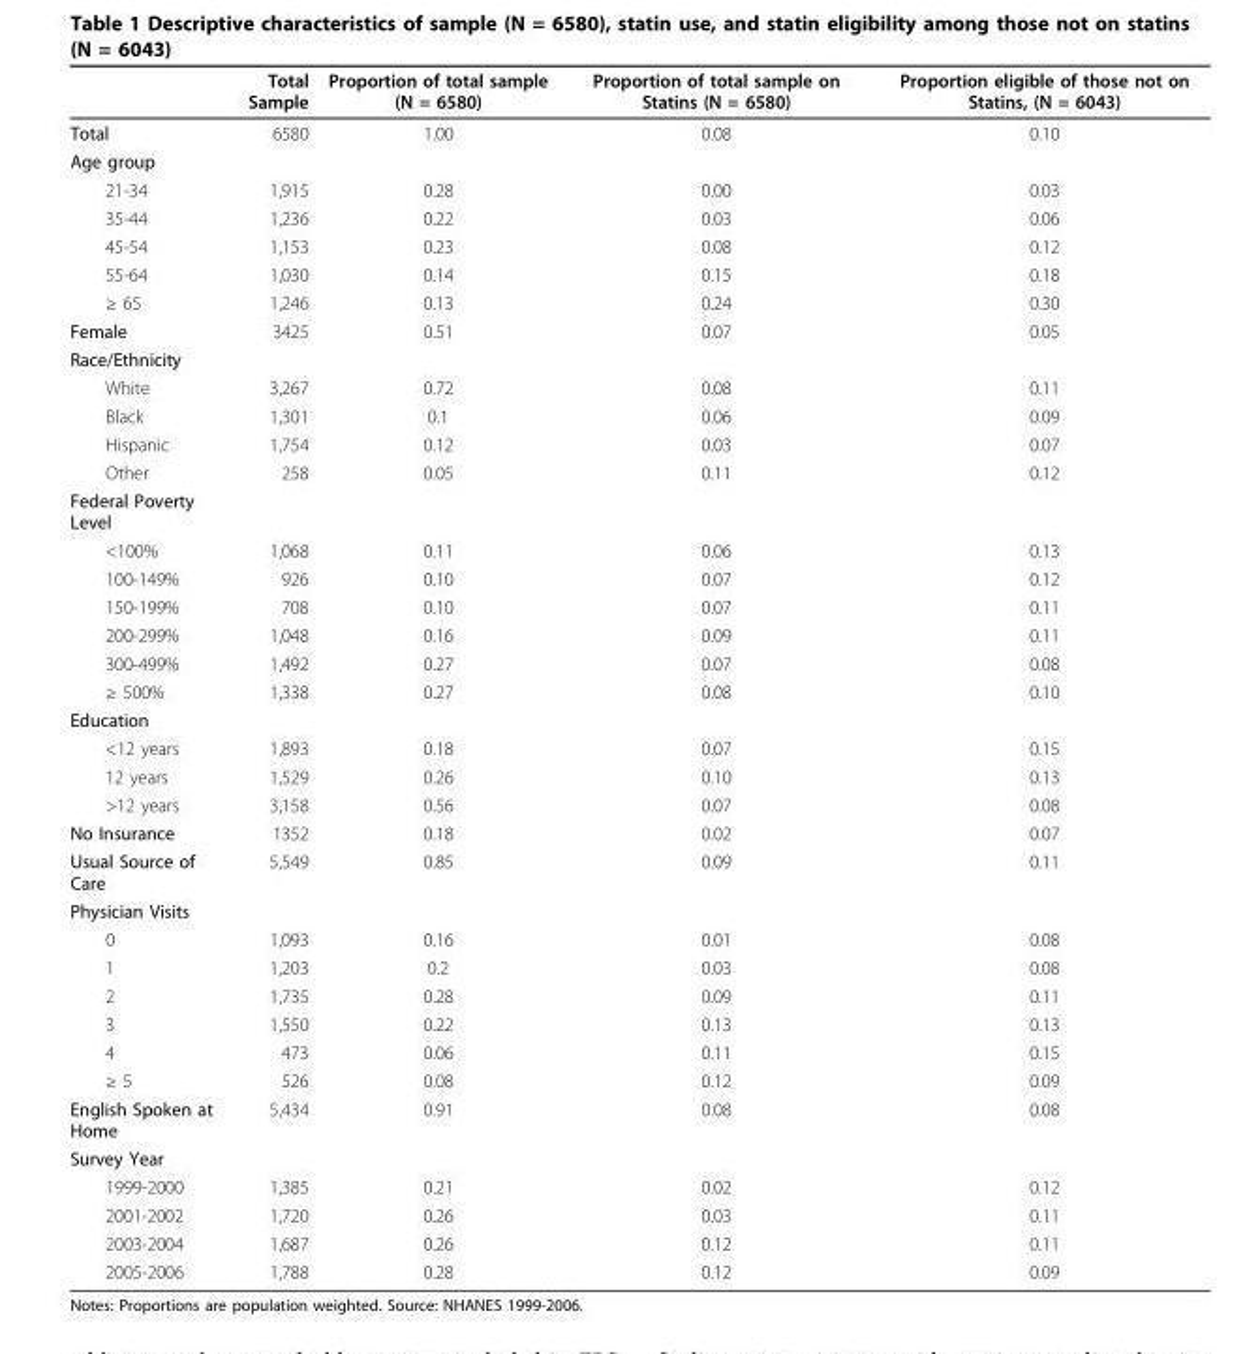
<table><thead><tr><td></td><td>Total Sample</td><td>Proportion of total sample (N = 6580)</td><td>Proportion of total sample on Statins (N = 6580)</td><td>Proportion eligible of those not on Statins, (N = 6043)</td></tr></thead><tbody><tr><td>Total</td><td>6580</td><td>1.00</td><td>0.08</td><td>0.10</td></tr><tr><td colspan="5">Age group</td></tr><tr><td>21-34</td><td>1,915</td><td>0.28</td><td>0.00</td><td>0.03</td></tr><tr><td>35-44</td><td>1,236</td><td>0.22</td><td>0.03</td><td>0.06</td></tr><tr><td>45-54</td><td>1,153</td><td>0.23</td><td>0.08</td><td>0.12</td></tr><tr><td>55-64</td><td>1,030</td><td>0.14</td><td>0.15</td><td>0.18</td></tr><tr><td>≥ 65</td><td>1,246</td><td>0.13</td><td>0.24</td><td>0.30</td></tr><tr><td>Female</td><td>3425</td><td>0.51</td><td>0.07</td><td>0.05</td></tr><tr><td colspan="5">Race/Ethnicity</td></tr><tr><td>White</td><td>3,267</td><td>0.72</td><td>0.08</td><td>0.11</td></tr><tr><td>Black</td><td>1,301</td><td>0.1</td><td>0.06</td><td>0.09</td></tr><tr><td>Hispanic</td><td>1,754</td><td>0.12</td><td>0.03</td><td>0.07</td></tr><tr><td>Other</td><td>258</td><td>0.05</td><td>0.11</td><td>0.12</td></tr><tr><td colspan="5">Federal Poverty Level</td></tr><tr><td>&lt;100%</td><td>1,068</td><td>0.11</td><td>0.06</td><td>0.13</td></tr><tr><td>100-149%</td><td>926</td><td>0.10</td><td>0.07</td><td>0.12</td></tr><tr><td>150-199%</td><td>708</td><td>0.10</td><td>0.07</td><td>0.11</td></tr><tr><td>200-299%</td><td>1,048</td><td>0.16</td><td>0.09</td><td>0.11</td></tr><tr><td>300-499%</td><td>1,492</td><td>0.27</td><td>0.07</td><td>0.08</td></tr><tr><td>≥ 500%</td><td>1,338</td><td>0.27</td><td>0.08</td><td>0.10</td></tr><tr><td colspan="5">Education</td></tr><tr><td>&lt;12 years</td><td>1,893</td><td>0.18</td><td>0.07</td><td>0.15</td></tr><tr><td>12 years</td><td>1,529</td><td>0.26</td><td>0.10</td><td>0.13</td></tr><tr><td>&gt;12 years</td><td>3,158</td><td>0.56</td><td>0.07</td><td>0.08</td></tr><tr><td>No Insurance</td><td>1352</td><td>0.18</td><td>0.02</td><td>0.07</td></tr><tr><td>Usual Source of Care</td><td>5,549</td><td>0.85</td><td>0.09</td><td>0.11</td></tr><tr><td colspan="5">Physician Visits</td></tr><tr><td>0</td><td>1,093</td><td>0.16</td><td>0.01</td><td>0.08</td></tr><tr><td>1</td><td>1,203</td><td>0.2</td><td>0.03</td><td>0.08</td></tr><tr><td>2</td><td>1,735</td><td>0.28</td><td>0.09</td><td>0.11</td></tr><tr><td>3</td><td>1,550</td><td>0.22</td><td>0.13</td><td>0.13</td></tr><tr><td>4</td><td>473</td><td>0.06</td><td>0.11</td><td>0.15</td></tr><tr><td>≥ 5</td><td>526</td><td>0.08</td><td>0.12</td><td>0.09</td></tr><tr><td>English Spoken at Home</td><td>5,434</td><td>0.91</td><td>0.08</td><td>0.08</td></tr><tr><td colspan="5">Survey Year</td></tr><tr><td>1999-2000</td><td>1,385</td><td>0.21</td><td>0.02</td><td>0.12</td></tr><tr><td>2001-2002</td><td>1,720</td><td>0.26</td><td>0.03</td><td>0.11</td></tr><tr><td>2003-2004</td><td>1,687</td><td>0.26</td><td>0.12</td><td>0.11</td></tr><tr><td>2005-2006</td><td>1,788</td><td>0.28</td><td>0.12</td><td>0.09</td></tr></tbody></table>